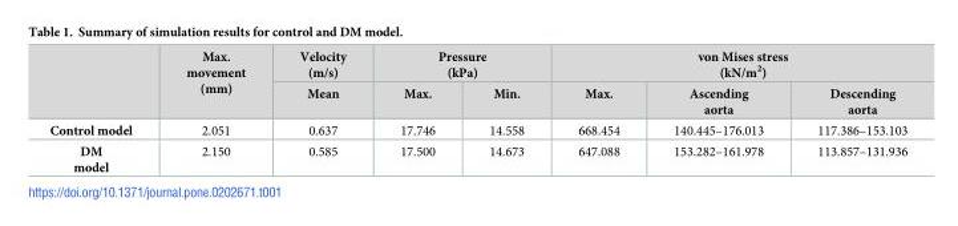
<table><thead><tr><td rowspan="2"></td><td rowspan="2">Max. movement (mm)</td><td rowspan="2">Velocity (m/s) Mean</td><td colspan="2">Pressure (kPa)</td><td colspan="3">von Mises stress (kN/m<sup>2</sup>)</td></tr><tr><td>Max.</td><td>Min.</td><td>Max.</td><td>Ascending aorta</td><td>Descending aorta</td></tr></thead><tbody><tr><td>Control model</td><td>2.051</td><td>0.637</td><td>17.746</td><td>14.558</td><td>668.454</td><td>140.445–176.013</td><td>117.386–153.103</td></tr><tr><td>DM model</td><td>2.150</td><td>0.585</td><td>17.500</td><td>14.673</td><td>647.088</td><td>153.282–161.978</td><td>113.857–131.936</td></tr></tbody></table>